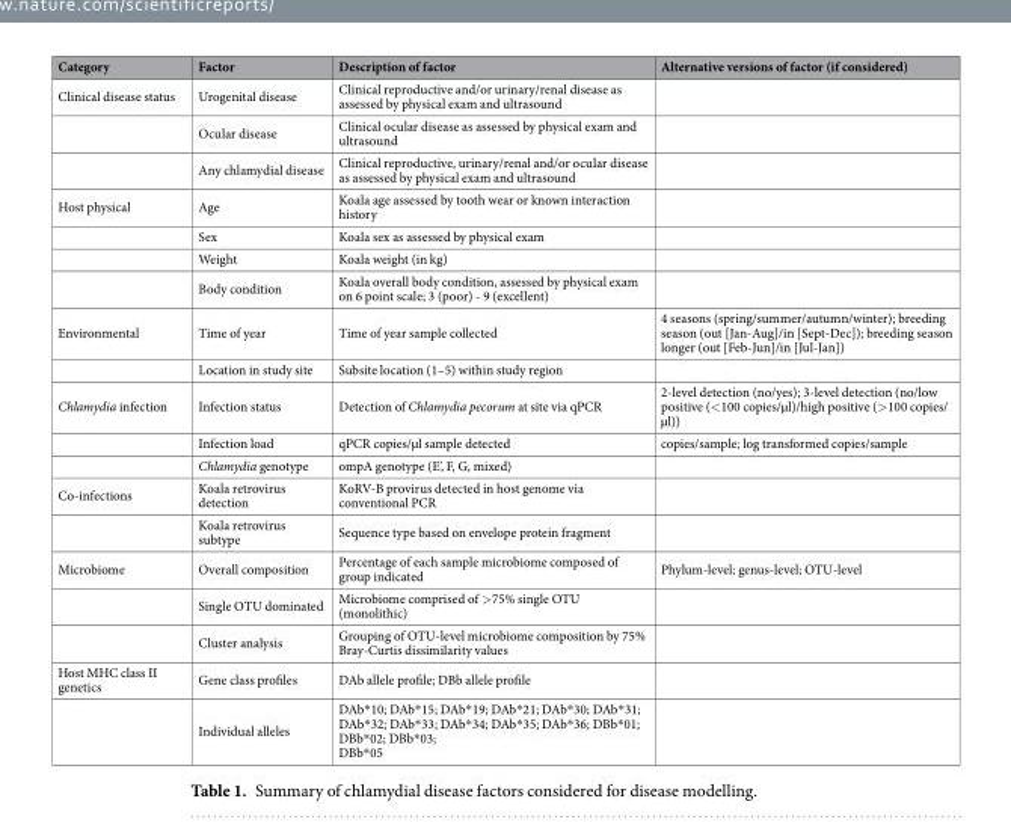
<table><thead><tr><td>Category</td><td>Factor</td><td>Description of factor</td><td>Alternative versions of factor (if considered)</td></tr></thead><tbody><tr><td rowspan="3">Clinical disease status</td><td>Urogenital disease</td><td>Clinical reproductive and/or urinary/renal disease as assessed by physical exam and ultrasound</td><td></td></tr><tr><td>Ocular disease</td><td>Clinical ocular disease as assessed by physical exam and ultrasound</td><td></td></tr><tr><td>Any chlamydial disease</td><td>Clinical reproductive, urinary/renal and/or ocular disease as assessed by physical exam and ultrasound</td><td></td></tr><tr><td rowspan="4">Host physical</td><td>Age</td><td>Koala age assessed by tooth wear or known interaction history</td><td></td></tr><tr><td>Sex</td><td>Koala sex as assessed by physical exam</td><td></td></tr><tr><td>Weight</td><td>Koala weight (in kg)</td><td></td></tr><tr><td>Body condition</td><td>Koala overall body condition, assessed by physical exam on 6 point scale; 3 (poor) - 9 (excellent)</td><td></td></tr><tr><td rowspan="2">Environmental</td><td>Time of year</td><td>Time of year sample collected</td><td>4 seasons (spring/summer/autumn/winter); breeding season (out [Jan-Aug]/in [Sept-Dec]); breeding season longer (out [Feb-Jun]/in [Jul-Jan])</td></tr><tr><td>Location in study site</td><td>Subsite location (1–5) within study region</td><td></td></tr><tr><td rowspan="3">Chlamydia infection</td><td>Infection status</td><td>Detection of Chlamydia pecorum at site via qPCR</td><td>2-level detection (no/yes); 3-level detection (no/low positive (&lt;100 copies/µl)/high positive (&gt;100 copies/ µl))</td></tr><tr><td>Infection load</td><td>qPCR copies/µl sample detected</td><td>copies/sample; log transformed copies/sample</td></tr><tr><td>Chlamydia genotype</td><td>ompA genotype (E’, F, G, mixed)</td><td></td></tr><tr><td rowspan="2">Co-infections</td><td>Koala retrovirus detection</td><td>KoRV-B provirus detected in host genome via conventional PCR</td><td></td></tr><tr><td>Koala retrovirus subtype</td><td>Sequence type based on envelope protein fragment</td><td></td></tr><tr><td rowspan="3">Microbiome</td><td>Overall composition</td><td>Percentage of each sample microbiome composed of group indicated</td><td>Phylum-level; genus-level; OTU-level</td></tr><tr><td>Single OTU dominated</td><td>Microbiome comprised of &gt;75% single OTU (monolithic)</td><td></td></tr><tr><td>Cluster analysis</td><td>Grouping of OTU-level microbiome composition by 75% Bray-Curtis dissimilarity values</td><td></td></tr><tr><td rowspan="2">Host MHC class II genetics</td><td>Gene class profiles</td><td>DAb allele profile; DBb allele profile</td><td></td></tr><tr><td>Individual alleles</td><td>DAb*10; DAb*15; DAb*19; DAb*21; DAb*30; DAb*31; DAb*32; DAb*33; DAb*34; DAb*35; DAb*36; DBb*01; DBb*02; DBb*03; DBb*05</td><td></td></tr></tbody></table>